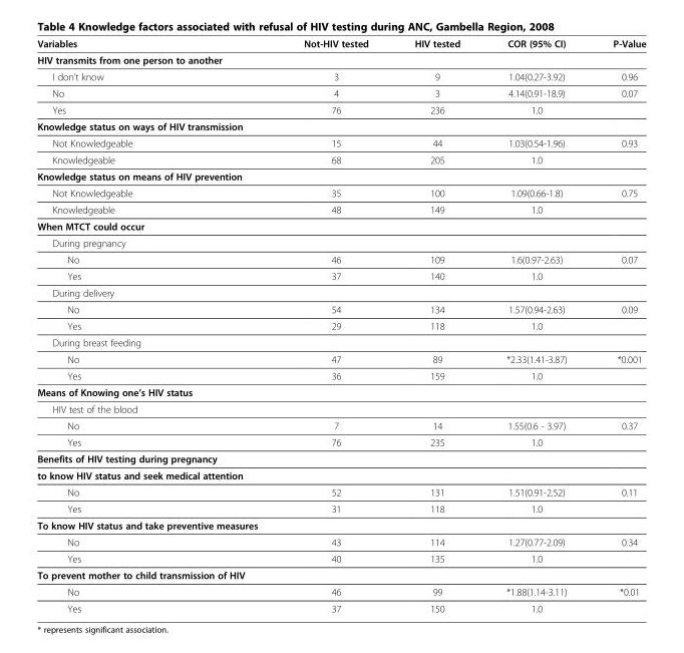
<table><thead><tr><td>Variables</td><td>Not-HIV tested</td><td>HIV tested</td><td>COR (95% CI)</td><td>P-Value</td></tr></thead><tbody><tr><td colspan="5">HIV transmits from one person to another</td></tr><tr><td>I don’t know</td><td>3</td><td>9</td><td>1.04(0.27-3.92)</td><td>0.96</td></tr><tr><td>No</td><td>4</td><td>3</td><td>4.14(0.91-18.9)</td><td>0.07</td></tr><tr><td>Yes</td><td>76</td><td>236</td><td>1.0</td><td></td></tr><tr><td colspan="5">Knowledge status on ways of HIV transmission</td></tr><tr><td>Not Knowledgeable</td><td>15</td><td>44</td><td>1.03(0.54-1.96)</td><td>0.93</td></tr><tr><td>Knowledgeable</td><td>68</td><td>205</td><td>1.0</td><td></td></tr><tr><td colspan="5">Knowledge status on means of HIV prevention</td></tr><tr><td>Not Knowledgeable</td><td>35</td><td>100</td><td>1.09(0.66-1.8)</td><td>0.75</td></tr><tr><td>Knowledgeable</td><td>48</td><td>149</td><td>1.0</td><td></td></tr><tr><td colspan="5">When MTCT could occur</td></tr><tr><td colspan="5">During pregnancy</td></tr><tr><td>No</td><td>46</td><td>109</td><td>1.6(0.97-2.63)</td><td>0.07</td></tr><tr><td>Yes</td><td>37</td><td>140</td><td>1.0</td><td></td></tr><tr><td colspan="5">During delivery</td></tr><tr><td>No</td><td>54</td><td>134</td><td>1.57(0.94-2.63)</td><td>0.09</td></tr><tr><td>Yes</td><td>29</td><td>118</td><td>1.0</td><td></td></tr><tr><td colspan="5">During breast feeding</td></tr><tr><td>No</td><td>47</td><td>89</td><td>*2.33(1.41-3.87)</td><td>*0.001</td></tr><tr><td>Yes</td><td>36</td><td>159</td><td>1.0</td><td></td></tr><tr><td colspan="5">Means of Knowing one’s HIV status</td></tr><tr><td colspan="5">HIV test of the blood</td></tr><tr><td>No</td><td>7</td><td>14</td><td>1.55(0.6 - 3.97)</td><td>0.37</td></tr><tr><td>Yes</td><td>76</td><td>235</td><td>1.0</td><td></td></tr><tr><td colspan="5">Benefits of HIV testing during pregnancy</td></tr><tr><td colspan="5">to know HIV status and seek medical attention</td></tr><tr><td>No</td><td>52</td><td>131</td><td>1.51(0.91-2.52)</td><td>0.11</td></tr><tr><td>Yes</td><td>31</td><td>118</td><td>1.0</td><td></td></tr><tr><td colspan="5">To know HIV status and take preventive measures</td></tr><tr><td>No</td><td>43</td><td>114</td><td>1.27(0.77-2.09)</td><td>0.34</td></tr><tr><td>Yes</td><td>40</td><td>135</td><td>1.0</td><td></td></tr><tr><td colspan="5">To prevent mother to child transmission of HIV</td></tr><tr><td>No</td><td>46</td><td>99</td><td>*1.88(1.14-3.11)</td><td>*0.01</td></tr><tr><td>Yes</td><td>37</td><td>150</td><td>1.0</td><td></td></tr></tbody></table>